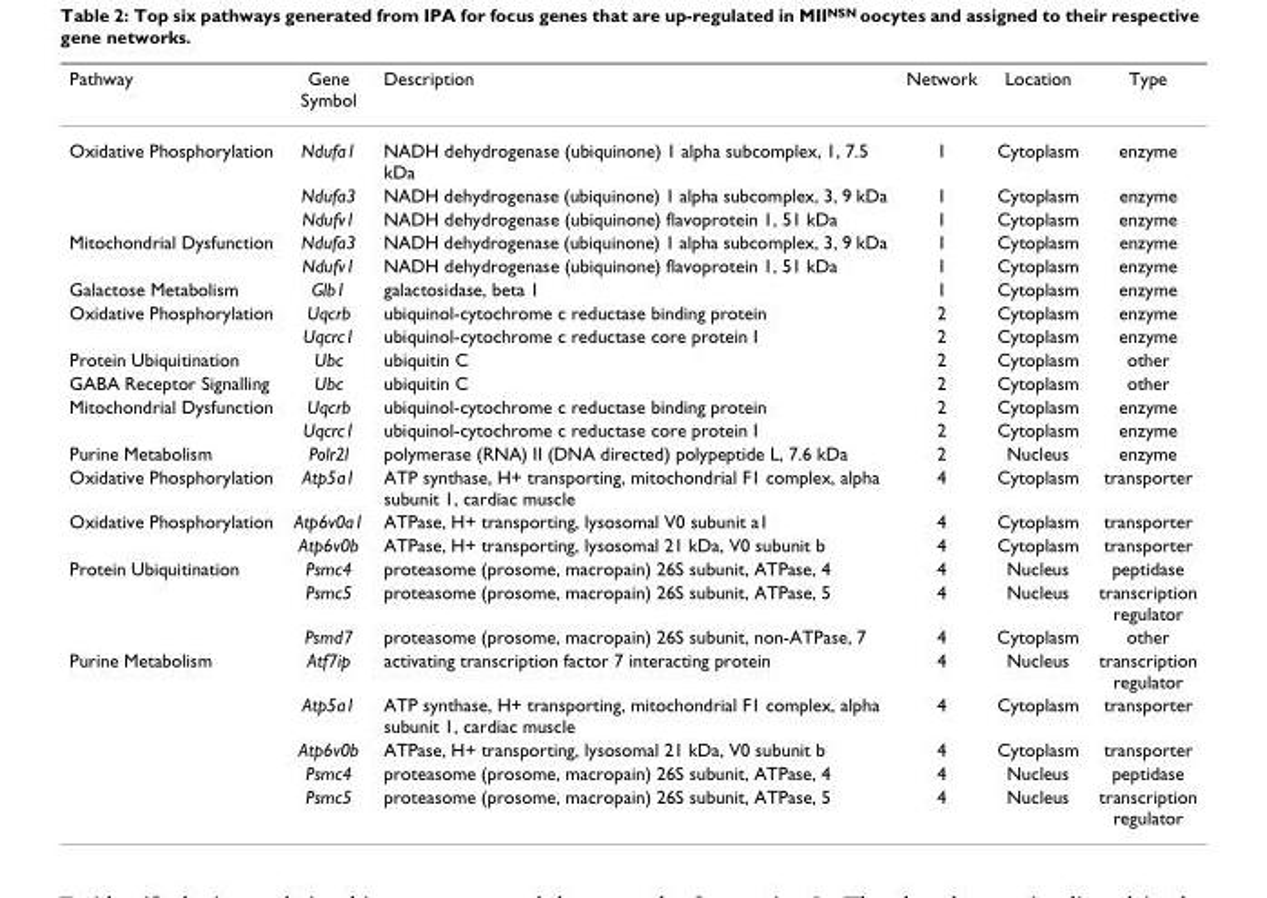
<table><thead><tr><td>Pathway</td><td>Gene Symbol</td><td>Description</td><td>Network</td><td>Location</td><td>Type</td></tr></thead><tbody><tr><td rowspan="3">Oxidative Phosphorylation</td><td>Ndufa1</td><td>NADH dehydrogenase (ubiquinone) 1 alpha subcomplex, 1, 7.5 kDa</td><td>1</td><td>Cytoplasm</td><td>enzyme</td></tr><tr><td>Ndufa3</td><td>NADH dehydrogenase (ubiquinone) 1 alpha subcomplex, 3, 9 kDa</td><td>1</td><td>Cytoplasm</td><td>enzyme</td></tr><tr><td>Ndufv1</td><td>NADH dehydrogenase (ubiquinone) flavoprotein 1, 51 kDa</td><td>1</td><td>Cytoplasm</td><td>enzyme</td></tr><tr><td rowspan="2">Mitochondrial Dysfunction</td><td>Ndufa3</td><td>NADH dehydrogenase (ubiquinone) 1 alpha subcomplex, 3, 9 kDa</td><td>1</td><td>Cytoplasm</td><td>enzyme</td></tr><tr><td>Ndufv1</td><td>NADH dehydrogenase (ubiquinone) flavoprotein 1, 51 kDa</td><td>1</td><td>Cytoplasm</td><td>enzyme</td></tr><tr><td>Galactose Metabolism</td><td>Glb1</td><td>galactosidase, beta 1</td><td>1</td><td>Cytoplasm</td><td>enzyme</td></tr><tr><td rowspan="2">Oxidative Phosphorylation</td><td>Uqcrb</td><td>ubiquinol-cytochrome c reductase binding protein</td><td>2</td><td>Cytoplasm</td><td>enzyme</td></tr><tr><td>Uqcrc1</td><td>ubiquinol-cytochrome c reductase core protein I</td><td>2</td><td>Cytoplasm</td><td>enzyme</td></tr><tr><td>Protein Ubiquitination</td><td>Ubc</td><td>ubiquitin C</td><td>2</td><td>Cytoplasm</td><td>other</td></tr><tr><td>GABA Receptor Signalling</td><td>Ubc</td><td>ubiquitin C</td><td>2</td><td>Cytoplasm</td><td>other</td></tr><tr><td rowspan="2">Mitochondrial Dysfunction</td><td>Uqcrb</td><td>ubiquinol-cytochrome c reductase binding protein</td><td>2</td><td>Cytoplasm</td><td>enzyme</td></tr><tr><td>Uqcrc1</td><td>ubiquinol-cytochrome c reductase core protein I</td><td>2</td><td>Cytoplasm</td><td>enzyme</td></tr><tr><td>Purine Metabolism</td><td>Polr2l</td><td>polymerase (RNA) II (DNA directed) polypeptide L, 7.6 kDa</td><td>2</td><td>Nucleus</td><td>enzyme</td></tr><tr><td>Oxidative Phosphorylation</td><td>Atp5a1</td><td>ATP synthase, H+ transporting, mitochondrial F1 complex, alpha subunit 1, cardiac muscle</td><td>4</td><td>Cytoplasm</td><td>transporter</td></tr><tr><td rowspan="2">Oxidative Phosphorylation</td><td>Atp6v0a1</td><td>ATPase, H+ transporting, lysosomal V0 subunit a1</td><td>4</td><td>Cytoplasm</td><td>transporter</td></tr><tr><td>Atp6v0b</td><td>ATPase, H+ transporting, lysosomal 21 kDa, V0 subunit b</td><td>4</td><td>Cytoplasm</td><td>transporter</td></tr><tr><td rowspan="3">Protein Ubiquitination</td><td>Psmc4</td><td>proteasome (prosome, macropain) 26S subunit, ATPase, 4</td><td>4</td><td>Nucleus</td><td>peptidase</td></tr><tr><td>Psmc5</td><td>proteasome (prosome, macropain) 26S subunit, ATPase, 5</td><td>4</td><td>Nucleus</td><td>transcription regulator</td></tr><tr><td>Psmd7</td><td>proteasome (prosome, macropain) 26S subunit, non-ATPase, 7</td><td>4</td><td>Cytoplasm</td><td>other</td></tr><tr><td rowspan="5">Purine Metabolism</td><td>Atf7ip</td><td>activating transcription factor 7 interacting protein</td><td>4</td><td>Nucleus</td><td>transcription regulator</td></tr><tr><td>Atp5a1</td><td>ATP synthase, H+ transporting, mitochondrial F1 complex, alpha subunit 1, cardiac muscle</td><td>4</td><td>Cytoplasm</td><td>transporter</td></tr><tr><td>Atp6v0b</td><td>ATPase, H+ transporting, lysosomal 21 kDa, V0 subunit b</td><td>4</td><td>Cytoplasm</td><td>transporter</td></tr><tr><td>Psmc4</td><td>proteasome (prosome, macropain) 26S subunit, ATPase, 4</td><td>4</td><td>Nucleus</td><td>peptidase</td></tr><tr><td>Psmc5</td><td>proteasome (prosome, macropain) 26S subunit, ATPase, 5</td><td>4</td><td>Nucleus</td><td>transcription regulator</td></tr></tbody></table>